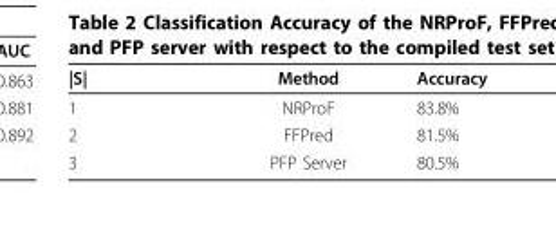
<table><thead><tr><td>|S|</td><td>Method</td><td>Accuracy</td></tr></thead><tbody><tr><td>1</td><td>NRProF</td><td>83.8%</td></tr><tr><td>2</td><td>FFPred</td><td>81.5%</td></tr><tr><td>3</td><td>PFP Server</td><td>80.5%</td></tr></tbody></table>